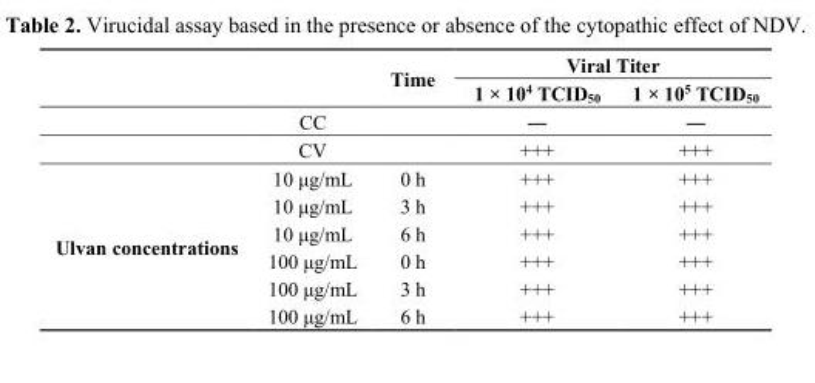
<table><thead><tr><td rowspan="2"></td><td rowspan="2"></td><td rowspan="2">Time</td><td colspan="2">Viral Titer</td></tr><tr><td>1 × 10<sup>4</sup> TCID<sub>50</sub></td><td>1 × 10<sup>5</sup> TCID<sub>50</sub></td></tr></thead><tbody><tr><td></td><td>CC</td><td></td><td>―</td><td>―</td></tr><tr><td></td><td>CV</td><td></td><td>+++</td><td>+++</td></tr><tr><td rowspan="6">Ulvan concentrations</td><td>10 μg/mL</td><td>0 h</td><td>+++</td><td>+++</td></tr><tr><td>10 μg/mL</td><td>3 h</td><td>+++</td><td>+++</td></tr><tr><td>10 μg/mL</td><td>6 h</td><td>+++</td><td>+++</td></tr><tr><td>100 μg/mL</td><td>0 h</td><td>+++</td><td>+++</td></tr><tr><td>100 μg/mL</td><td>3 h</td><td>+++</td><td>+++</td></tr><tr><td>100 μg/mL</td><td>6 h</td><td>+++</td><td>+++</td></tr></tbody></table>